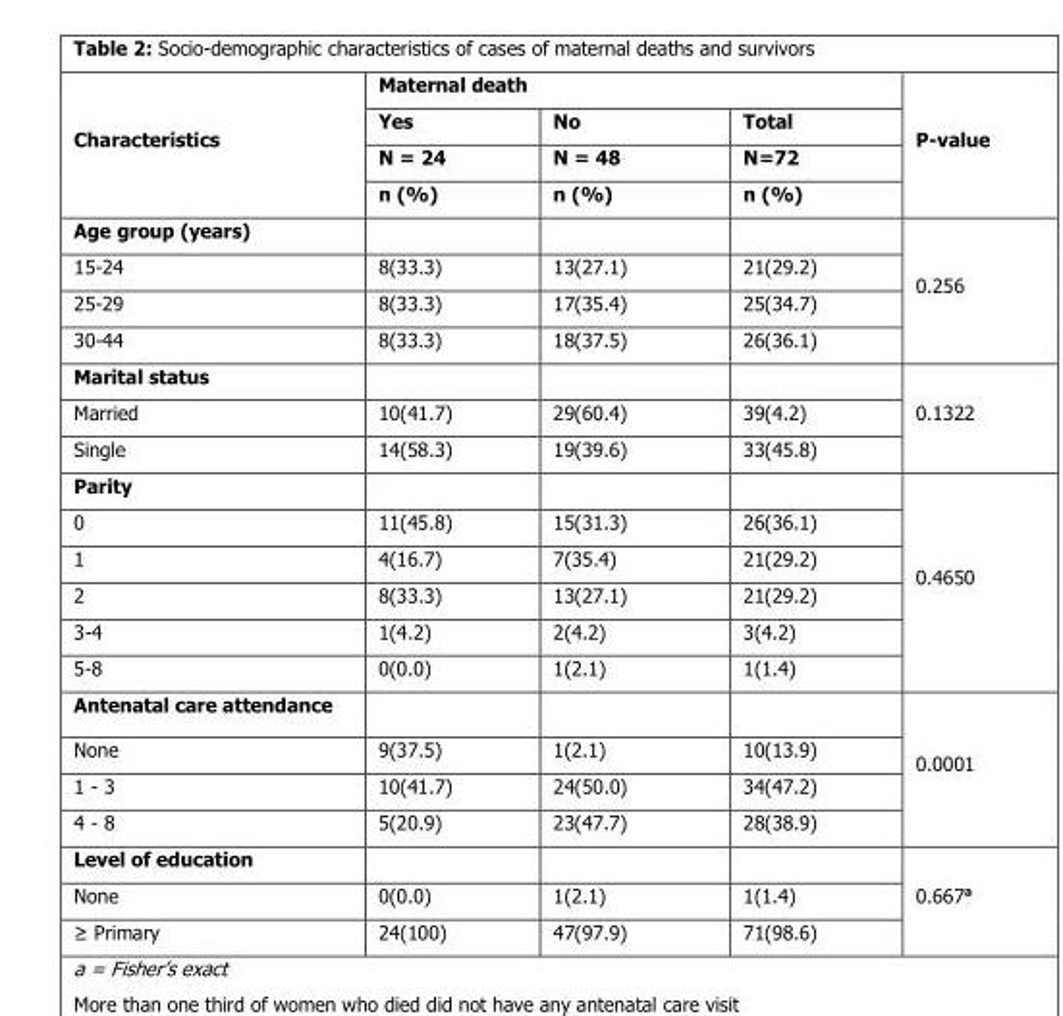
<table><thead><tr><td rowspan="4">Characteristics</td><td colspan="3">Maternal death</td><td rowspan="4">P-value</td></tr><tr><td rowspan="3">Yes N = 24 n (%)</td><td rowspan="3">No N = 48 n (%)</td><td rowspan="3">Total N=72 n (%)</td></tr><tr></tr><tr></tr></thead><tbody><tr><td colspan="4">Age group (years)</td><td rowspan="4">0.256</td></tr><tr><td>15-24</td><td>8(33.3)</td><td>13(27.1)</td><td>21(29.2)</td></tr><tr><td>25-29</td><td>8(33.3)</td><td>17(35.4)</td><td>25(34.7)</td></tr><tr><td>30-44</td><td>8(33.3)</td><td>18(37.5)</td><td>26(36.1)</td></tr><tr><td colspan="4">Marital status</td><td rowspan="3">0.1322</td></tr><tr><td>Married</td><td>10(41.7)</td><td>29(60.4)</td><td>39(4.2)</td></tr><tr><td>Single</td><td>14(58.3)</td><td>19(39.6)</td><td>33(45.8)</td></tr><tr><td colspan="4">Parity</td><td rowspan="6">0.4650</td></tr><tr><td>0</td><td>11(45.8)</td><td>15(31.3)</td><td>26(36.1)</td></tr><tr><td>1</td><td>4(16.7)</td><td>7(35.4)</td><td>21(29.2)</td></tr><tr><td>2</td><td>8(33.3)</td><td>13(27.1)</td><td>21(29.2)</td></tr><tr><td>3-4</td><td>1(4.2)</td><td>2(4.2)</td><td>3(4.2)</td></tr><tr><td>5-8</td><td>0(0.0)</td><td>1(2.1)</td><td>1(1.4)</td></tr><tr><td colspan="4">Antenatal care attendance</td><td rowspan="4">0.0001</td></tr><tr><td>None</td><td>9(37.5)</td><td>1(2.1)</td><td>10(13.9)</td></tr><tr><td>1 - 3</td><td>10(41.7)</td><td>24(50.0)</td><td>34(47.2)</td></tr><tr><td>4 - 8</td><td>5(20.9)</td><td>23(47.7)</td><td>28(38.9)</td></tr><tr><td colspan="4">Level of education</td><td rowspan="3">0.667<sup>a</sup></td></tr><tr><td>None</td><td>0(0.0)</td><td>1(2.1)</td><td>1(1.4)</td></tr><tr><td>≥ Primary</td><td>24(100)</td><td>47(97.9)</td><td>71(98.6)</td></tr></tbody></table>